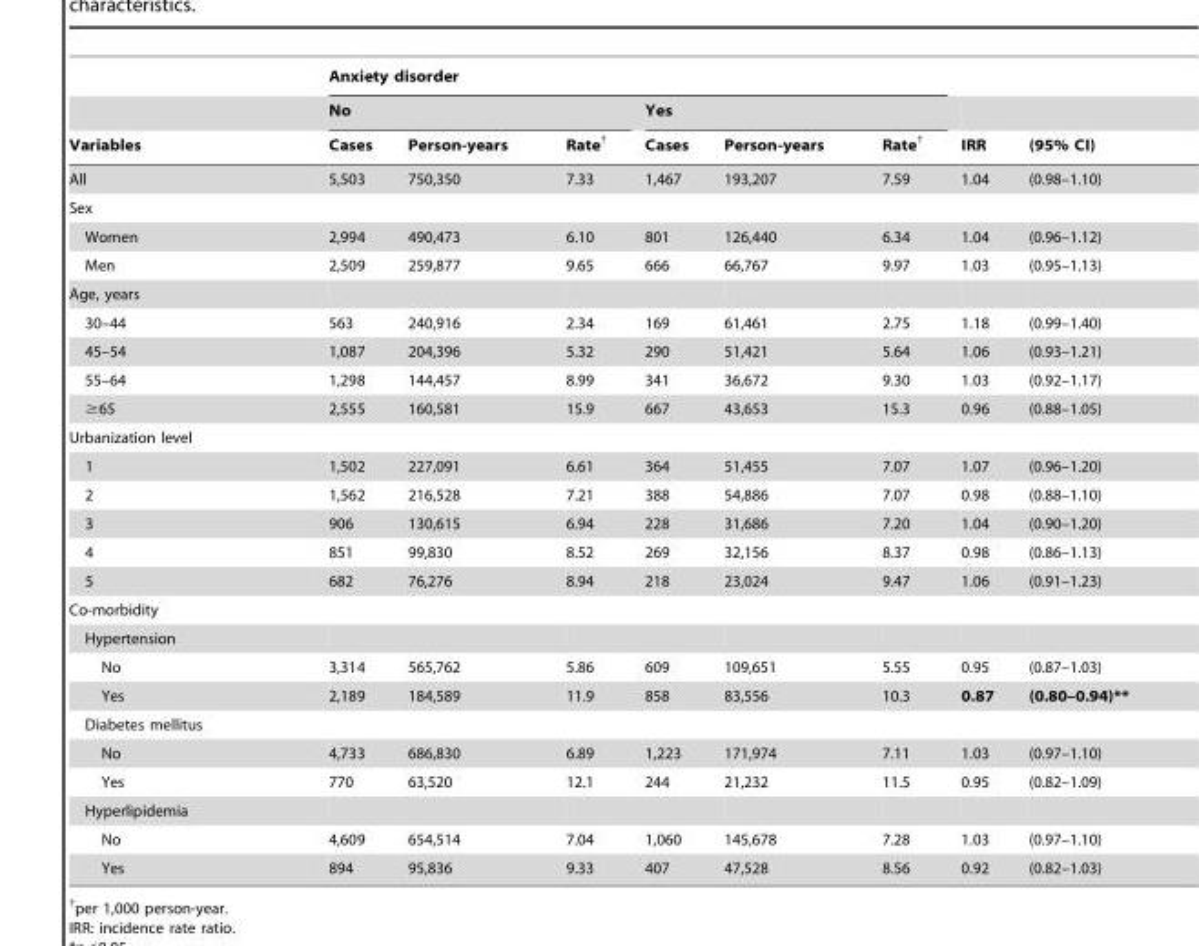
<table><thead><tr><td rowspan="3">Variables</td><td colspan="6">Anxiety disorder</td><td rowspan="3">IRR</td><td rowspan="3">(95% CI)</td></tr><tr><td colspan="3">No</td><td colspan="3">Yes</td></tr><tr><td>Cases</td><td>Person-years</td><td>Rate†</td><td>Cases</td><td>Person-years</td><td>Rate†</td></tr></thead><tbody><tr><td>All</td><td>5,503</td><td>750,350</td><td>7.33</td><td>1,467</td><td>193,207</td><td>7.59</td><td>1.04</td><td>(0.98–1.10)</td></tr><tr><td colspan="9">Sex</td></tr><tr><td>Women</td><td>2,994</td><td>490,473</td><td>6.10</td><td>801</td><td>126,440</td><td>6.34</td><td>1.04</td><td>(0.96–1.12)</td></tr><tr><td>Men</td><td>2,509</td><td>259,877</td><td>9.65</td><td>666</td><td>66,767</td><td>9.97</td><td>1.03</td><td>(0.95–1.13)</td></tr><tr><td colspan="9">Age, years</td></tr><tr><td>30–44</td><td>563</td><td>240,916</td><td>2.34</td><td>169</td><td>61,461</td><td>2.75</td><td>1.18</td><td>(0.99–1.40)</td></tr><tr><td>45–54</td><td>1,087</td><td>204,396</td><td>5.32</td><td>290</td><td>51,421</td><td>5.64</td><td>1.06</td><td>(0.93–1.21)</td></tr><tr><td>55–64</td><td>1,298</td><td>144,457</td><td>8.99</td><td>341</td><td>36,672</td><td>9.30</td><td>1.03</td><td>(0.92–1.17)</td></tr><tr><td>≥65</td><td>2,555</td><td>160,581</td><td>15.9</td><td>667</td><td>43,653</td><td>15.3</td><td>0.96</td><td>(0.88–1.05)</td></tr><tr><td colspan="9">Urbanization level</td></tr><tr><td>1</td><td>1,502</td><td>227,091</td><td>6.61</td><td>364</td><td>51,455</td><td>7.07</td><td>1.07</td><td>(0.96–1.20)</td></tr><tr><td>2</td><td>1,562</td><td>216,528</td><td>7.21</td><td>388</td><td>54,886</td><td>7.07</td><td>0.98</td><td>(0.88–1.10)</td></tr><tr><td>3</td><td>906</td><td>130,615</td><td>6.94</td><td>228</td><td>31,686</td><td>7.20</td><td>1.04</td><td>(0.90–1.20)</td></tr><tr><td>4</td><td>851</td><td>99,830</td><td>8.52</td><td>269</td><td>32,156</td><td>8.37</td><td>0.98</td><td>(0.86–1.13)</td></tr><tr><td>5</td><td>682</td><td>76,276</td><td>8.94</td><td>218</td><td>23,024</td><td>9.47</td><td>1.06</td><td>(0.91–1.23)</td></tr><tr><td colspan="9">Co-morbidity</td></tr><tr><td colspan="9">Hypertension</td></tr><tr><td>No</td><td>3,314</td><td>565,762</td><td>5.86</td><td>609</td><td>109,651</td><td>5.55</td><td>0.95</td><td>(0.87–1.03)</td></tr><tr><td>Yes</td><td>2,189</td><td>184,589</td><td>11.9</td><td>858</td><td>83,556</td><td>10.3</td><td>0.87</td><td>(0.80–0.94)**</td></tr><tr><td colspan="9">Diabetes mellitus</td></tr><tr><td>No</td><td>4,733</td><td>686,830</td><td>6.89</td><td>1,223</td><td>171,974</td><td>7.11</td><td>1.03</td><td>(0.97–1.10)</td></tr><tr><td>Yes</td><td>770</td><td>63,520</td><td>12.1</td><td>244</td><td>21,232</td><td>11.5</td><td>0.95</td><td>(0.82–1.09)</td></tr><tr><td colspan="9">Hyperlipidemia</td></tr><tr><td>No</td><td>4,609</td><td>654,514</td><td>7.04</td><td>1,060</td><td>145,678</td><td>7.28</td><td>1.03</td><td>(0.97–1.10)</td></tr><tr><td>Yes</td><td>894</td><td>95,836</td><td>9.33</td><td>407</td><td>47,528</td><td>8.56</td><td>0.92</td><td>(0.82–1.03)</td></tr></tbody></table>